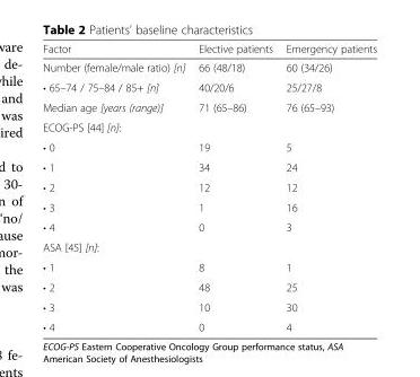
<table><thead><tr><td>Factor</td><td>Elective patients</td><td>Emergency patients</td></tr></thead><tbody><tr><td>Number (female/male ratio) [n]</td><td>66 (48/18)</td><td>60 (34/26)</td></tr><tr><td>• 65–74 / 75–84 / 85+ [n]</td><td>40/20/6</td><td>25/27/8</td></tr><tr><td>Median age [years (range)]</td><td>71 (65–86)</td><td>76 (65–93)</td></tr><tr><td colspan="3">ECOG-PS [44] [n]:</td></tr><tr><td>• 0</td><td>19</td><td>5</td></tr><tr><td>• 1</td><td>34</td><td>24</td></tr><tr><td>• 2</td><td>12</td><td>12</td></tr><tr><td>• 3</td><td>1</td><td>16</td></tr><tr><td>• 4</td><td>0</td><td>3</td></tr><tr><td colspan="3">ASA [45] [n]:</td></tr><tr><td>• 1</td><td>8</td><td>1</td></tr><tr><td>• 2</td><td>48</td><td>25</td></tr><tr><td>• 3</td><td>10</td><td>30</td></tr><tr><td>• 4</td><td>0</td><td>4</td></tr></tbody></table>